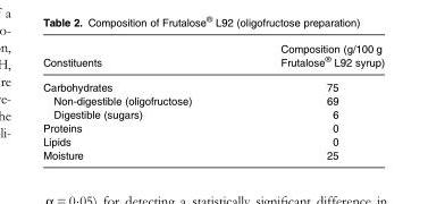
<table><thead><tr><td>Constituents</td><td>Composition (g/100 g Frutalose<sup>®</sup> L92 syrup)</td></tr></thead><tbody><tr><td>Carbohydrates</td><td>75</td></tr><tr><td>Non-digestible (oligofructose)</td><td>69</td></tr><tr><td>Digestible (sugars)</td><td>6</td></tr><tr><td>Proteins</td><td>0</td></tr><tr><td>Lipids</td><td>0</td></tr><tr><td>Moisture</td><td>25</td></tr></tbody></table>